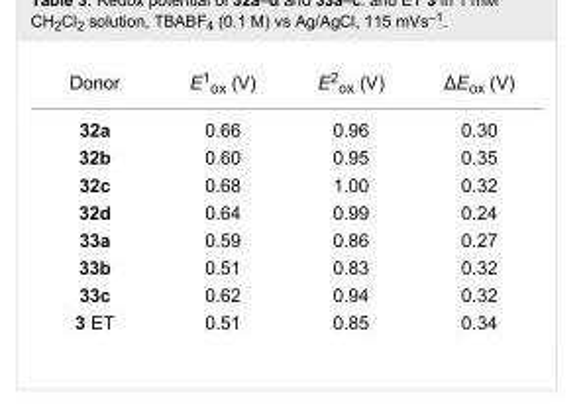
<table><tbody><tr><td>Donor</td><td>E<sup>1</sup><sub>ox</sub> (V)</td><td>E<sup>2</sup><sub>ox</sub> (V)</td><td>ΔE<sub>ox</sub> (V)</td></tr><tr><td>32a</td><td>0.66</td><td>0.96</td><td>0.30</td></tr><tr><td>32b</td><td>0.60</td><td>0.95</td><td>0.35</td></tr><tr><td>32c</td><td>0.68</td><td>1.00</td><td>0.32</td></tr><tr><td>32d</td><td>0.64</td><td>0.99</td><td>0.24</td></tr><tr><td>33a</td><td>0.59</td><td>0.86</td><td>0.27</td></tr><tr><td>33b</td><td>0.51</td><td>0.83</td><td>0.32</td></tr><tr><td>33c</td><td>0.62</td><td>0.94</td><td>0.32</td></tr><tr><td>3 ET</td><td>0.51</td><td>0.85</td><td>0.34</td></tr></tbody></table>